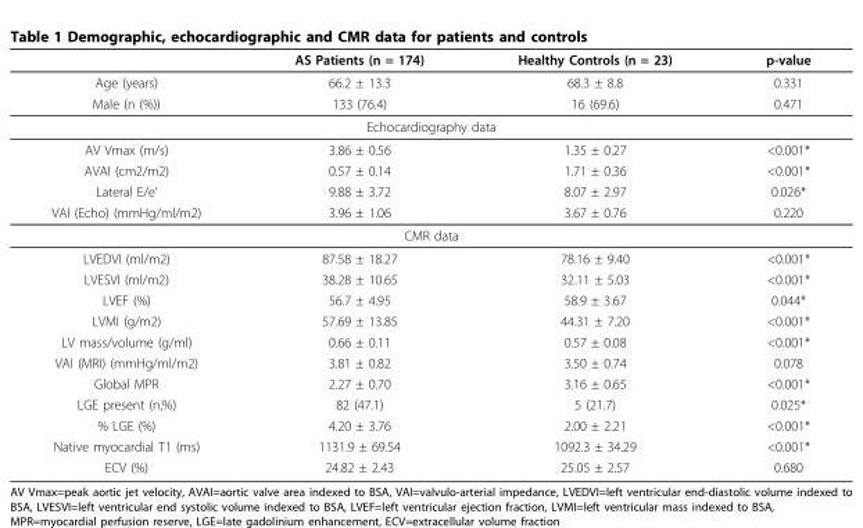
<table><thead><tr><td></td><td>AS Patients (n = 174)</td><td>Healthy Controls (n = 23)</td><td>p-value</td></tr></thead><tbody><tr><td>Age (years)</td><td>66.2 ± 13.3</td><td>68.3 ± 8.8</td><td>0.331</td></tr><tr><td>Male (n (%))</td><td>133 (76.4)</td><td>16 (69.6)</td><td>0.471</td></tr><tr><td colspan="4">Echocardiography data</td></tr><tr><td>AV Vmax (m/s)</td><td>3.86 ± 0.56</td><td>1.35 ± 0.27</td><td>&lt;0.001*</td></tr><tr><td>AVAI (cm2/m2)</td><td>0.57 ± 0.14</td><td>1.71 ± 0.36</td><td>&lt;0.001*</td></tr><tr><td>Lateral E/e’</td><td>9.88 ± 3.72</td><td>8.07 ± 2.97</td><td>0.026*</td></tr><tr><td>VAI (Echo) (mmHg/ml/m2)</td><td>3.96 ± 1.06</td><td>3.67 ± 0.76</td><td>0.220</td></tr><tr><td colspan="4">CMR data</td></tr><tr><td>LVEDVI (ml/m2)</td><td>87.58 ± 18.27</td><td>78.16 ± 9.40</td><td>&lt;0.001*</td></tr><tr><td>LVESVI (ml/m2)</td><td>38.28 ± 10.65</td><td>32.11 ± 5.03</td><td>&lt;0.001*</td></tr><tr><td>LVEF (%)</td><td>56.7 ± 4.95</td><td>58.9 ± 3.67</td><td>0.044*</td></tr><tr><td>LVMI (g/m2)</td><td>57.69 ± 13.85</td><td>44.31 ± 7.20</td><td>&lt;0.001*</td></tr><tr><td>LV mass/volume (g/ml)</td><td>0.66 ± 0.11</td><td>0.57 ± 0.08</td><td>&lt;0.001*</td></tr><tr><td>VAI (MRI) (mmHg/ml/m2)</td><td>3.81 ± 0.82</td><td>3.50 ± 0.74</td><td>0.078</td></tr><tr><td>Global MPR</td><td>2.27 ± 0.70</td><td>3.16 ± 0.65</td><td>&lt;0.001*</td></tr><tr><td>LGE present (n,%)</td><td>82 (47.1)</td><td>5 (21.7)</td><td>0.025*</td></tr><tr><td>% LGE (%)</td><td>4.20 ± 3.76</td><td>2.00 ± 2.21</td><td>&lt;0.001*</td></tr><tr><td>Native myocardial T1 (ms)</td><td>1131.9 ± 69.54</td><td>1092.3 ± 34.29</td><td>&lt;0.001*</td></tr><tr><td>ECV (%)</td><td>24.82 ± 2.43</td><td>25.05 ± 2.57</td><td>0.680</td></tr></tbody></table>